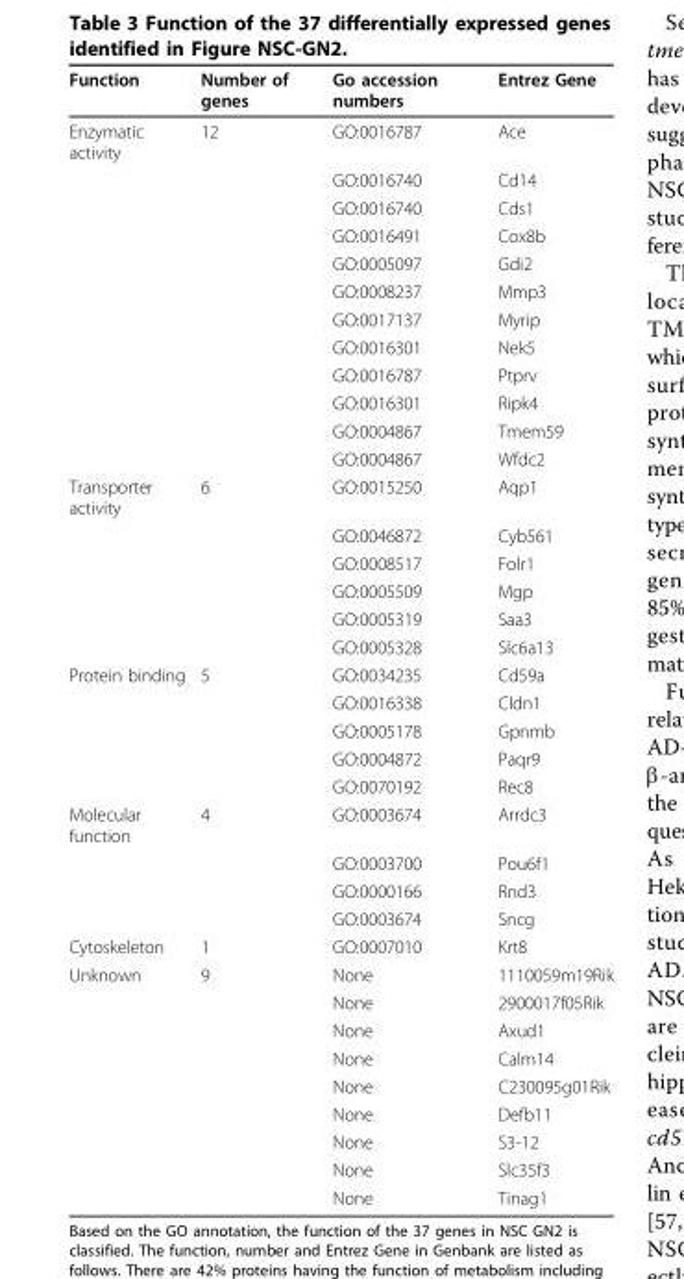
<table><thead><tr><td>Function</td><td>Number of genes</td><td>Go accession numbers</td><td>Entrez Gene</td></tr></thead><tbody><tr><td rowspan="12">Enzymatic activity</td><td>12</td><td>GO:0016787</td><td>Ace</td></tr><tr><td></td><td>GO:0016740</td><td>Cd14</td></tr><tr><td></td><td>GO:0016740</td><td>Cds1</td></tr><tr><td></td><td>GO:0016491</td><td>Cox8b</td></tr><tr><td></td><td>GO:0005097</td><td>Gdi2</td></tr><tr><td></td><td>GO:0008237</td><td>Mmp3</td></tr><tr><td></td><td>GO:0017137</td><td>Myrip</td></tr><tr><td></td><td>GO:0016301</td><td>Nek5</td></tr><tr><td></td><td>GO:0016787</td><td>Ptprv</td></tr><tr><td></td><td>GO:0016301</td><td>Ripk4</td></tr><tr><td></td><td>GO:0004867</td><td>Tmem59</td></tr><tr><td></td><td>GO:0004867</td><td>Wfdc2</td></tr><tr><td rowspan="6">Transporter activity</td><td>6</td><td>GO:0015250</td><td>Aqp1</td></tr><tr><td></td><td>GO:0046872</td><td>Cyb561</td></tr><tr><td></td><td>GO:0008517</td><td>Folr1</td></tr><tr><td></td><td>GO:0005509</td><td>Mgp</td></tr><tr><td></td><td>GO:0005319</td><td>Saa3</td></tr><tr><td></td><td>GO:0005328</td><td>Slc6a13</td></tr><tr><td rowspan="5">Protein binding</td><td>5</td><td>GO:0034235</td><td>Cd59a</td></tr><tr><td></td><td>GO:0016338</td><td>Cldn1</td></tr><tr><td></td><td>GO:0005178</td><td>Gpnmb</td></tr><tr><td></td><td>GO:0004872</td><td>Paqr9</td></tr><tr><td></td><td>GO:0070192</td><td>Rec8</td></tr><tr><td rowspan="4">Molecular function</td><td>4</td><td>GO:0003674</td><td>Arrdc3</td></tr><tr><td></td><td>GO:0003700</td><td>Pou6f1</td></tr><tr><td></td><td>GO:0000166</td><td>Rnd3</td></tr><tr><td></td><td>GO:0003674</td><td>Sncg</td></tr><tr><td>Cytoskeleton</td><td>1</td><td>GO:0007010</td><td>Krt8</td></tr><tr><td rowspan="9">Unknown</td><td>9</td><td>None</td><td>1110059m19Rik</td></tr><tr><td></td><td>None</td><td>2900017f05Rik</td></tr><tr><td></td><td>None</td><td>Axud1</td></tr><tr><td></td><td>None</td><td>Calm14</td></tr><tr><td></td><td>None</td><td>C230095g01Rik</td></tr><tr><td></td><td>None</td><td>Defb11</td></tr><tr><td></td><td>None</td><td>S3-12</td></tr><tr><td></td><td>None</td><td>Slc35f3</td></tr><tr><td></td><td>None</td><td>Tinag1</td></tr></tbody></table>